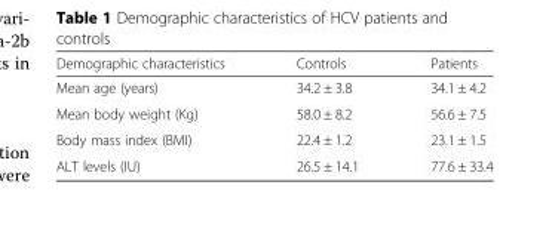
<table><thead><tr><td>Demographic characteristics</td><td>Controls</td><td>Patients</td></tr></thead><tbody><tr><td>Mean age (years)</td><td>34.2 ± 3.8</td><td>34.1 ± 4.2</td></tr><tr><td>Mean body weight (Kg)</td><td>58.0 ± 8.2</td><td>56.6 ± 7.5</td></tr><tr><td>Body mass index (BMI)</td><td>22.4 ± 1.2</td><td>23.1 ± 1.5</td></tr><tr><td>ALT levels (IU)</td><td>26.5 ± 14.1</td><td>77.6 ± 33.4</td></tr></tbody></table>